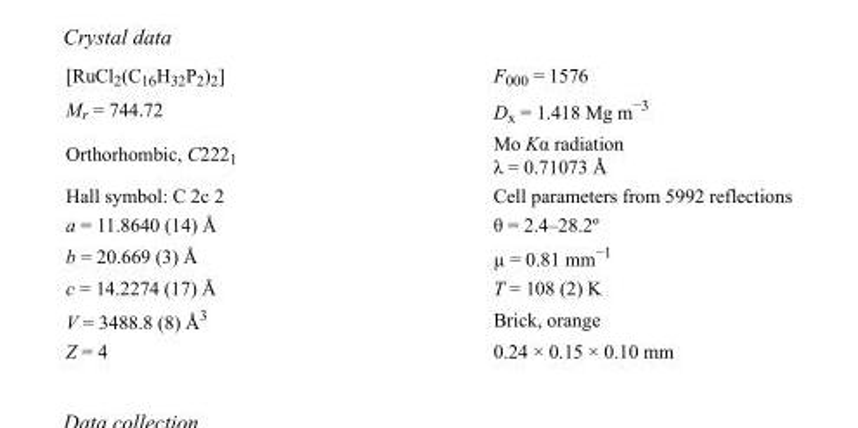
<table><tbody><tr><td>[RuCl<sub>2</sub>(C<sub>16</sub>H<sub>32</sub>P<sub>2</sub>)<sub>2</sub>]</td><td>F<sub>000</sub> = 1576</td></tr><tr><td>M<sub>r</sub> = 744.72</td><td>D<sub>x</sub> = 1.418 Mg m<sup>−3</sup></td></tr><tr><td>Orthorhombic, C222<sub>1</sub></td><td>Mo Kα radiation λ = 0.71073 Å</td></tr><tr><td>Hall symbol: C 2c 2</td><td>Cell parameters from 5992 reflections</td></tr><tr><td>a = 11.8640 (14) Å</td><td>θ = 2.4–28.2º</td></tr><tr><td>b = 20.669 (3) Å</td><td>µ = 0.81 mm<sup>−1</sup></td></tr><tr><td>c = 14.2274 (17) Å</td><td>T = 108 (2) K</td></tr><tr><td>V = 3488.8 (8) Å<sup>3</sup></td><td>Brick, orange</td></tr><tr><td>Z = 4</td><td>0.24 × 0.15 × 0.10 mm</td></tr></tbody></table>